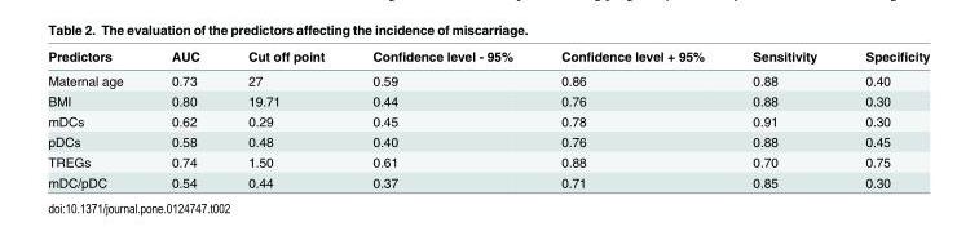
<table><thead><tr><td>Predictors</td><td>AUC</td><td>Cut off point</td><td>Confidence level - 95%</td><td>Confidence level + 95%</td><td>Sensitivity</td><td>Specificity</td></tr></thead><tbody><tr><td>Maternal age</td><td>0.73</td><td>27</td><td>0.59</td><td>0.86</td><td>0.88</td><td>0.40</td></tr><tr><td>BMI</td><td>0.80</td><td>19.71</td><td>0.44</td><td>0.76</td><td>0.88</td><td>0.30</td></tr><tr><td>mDCs</td><td>0.62</td><td>0.29</td><td>0.45</td><td>0.78</td><td>0.91</td><td>0.30</td></tr><tr><td>pDCs</td><td>0.58</td><td>0.48</td><td>0.40</td><td>0.76</td><td>0.88</td><td>0.45</td></tr><tr><td>TREGs</td><td>0.74</td><td>1.50</td><td>0.61</td><td>0.88</td><td>0.70</td><td>0.75</td></tr><tr><td>mDC/pDC</td><td>0.54</td><td>0.44</td><td>0.37</td><td>0.71</td><td>0.85</td><td>0.30</td></tr></tbody></table>